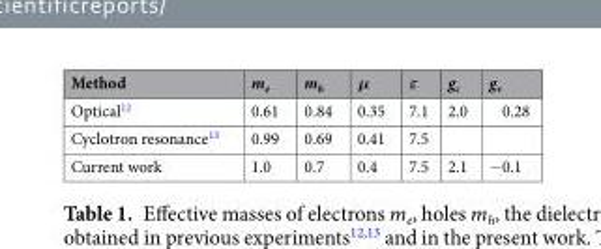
<table><thead><tr><td>Method</td><td>m<sub>e</sub></td><td>m<sub>h</sub></td><td>μ</td><td>ε</td><td>g<sub>c</sub></td><td>g<sub>v</sub></td></tr></thead><tbody><tr><td>Optical<sup>12</sup></td><td>0.61</td><td>0.84</td><td>0.35</td><td>7.1</td><td>2.0</td><td>0.28</td></tr><tr><td>Cyclotron resonance<sup>13</sup></td><td>0.99</td><td>0.69</td><td>0.41</td><td>7.5</td><td></td><td></td></tr><tr><td>Current work</td><td>1.0</td><td>0.7</td><td>0.4</td><td>7.5</td><td>2.1</td><td>−0.1</td></tr></tbody></table>